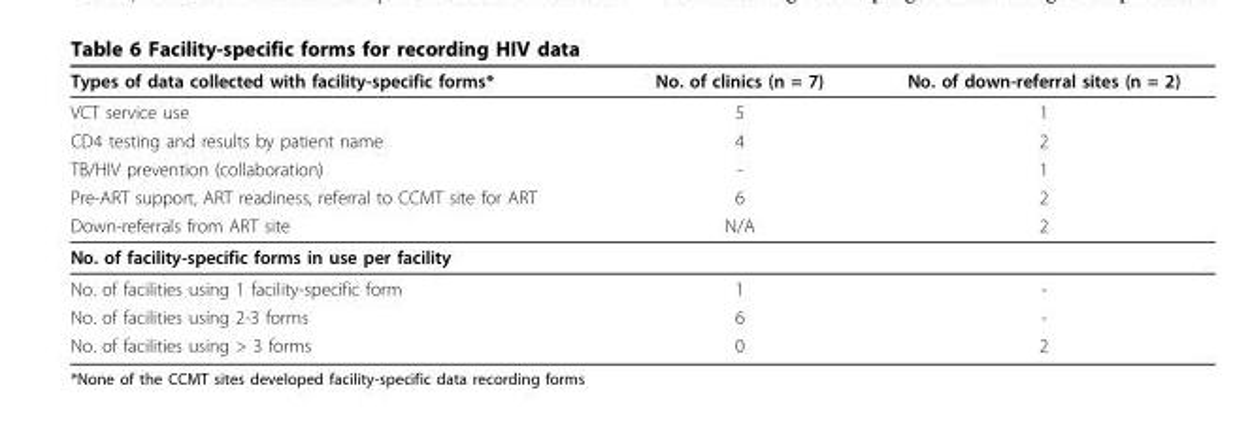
<table><thead><tr><td>Types of data collected with facility-specific forms*</td><td>No. of clinics (n = 7)</td><td>No. of down-referral sites (n = 2)</td></tr></thead><tbody><tr><td>VCT service use</td><td>5</td><td>1</td></tr><tr><td>CD4 testing and results by patient name</td><td>4</td><td>2</td></tr><tr><td>TB/HIV prevention (collaboration)</td><td>-</td><td>1</td></tr><tr><td>Pre-ART support, ART readiness, referral to CCMT site for ART</td><td>6</td><td>2</td></tr><tr><td>Down-referrals from ART site</td><td>N/A</td><td>2</td></tr><tr><td colspan="3">No. of facility-specific forms in use per facility</td></tr><tr><td>No. of facilities using 1 facility-specific form</td><td>1</td><td>-</td></tr><tr><td>No. of facilities using 2-3 forms</td><td>6</td><td>-</td></tr><tr><td>No. of facilities using &gt; 3 forms</td><td>0</td><td>2</td></tr></tbody></table>